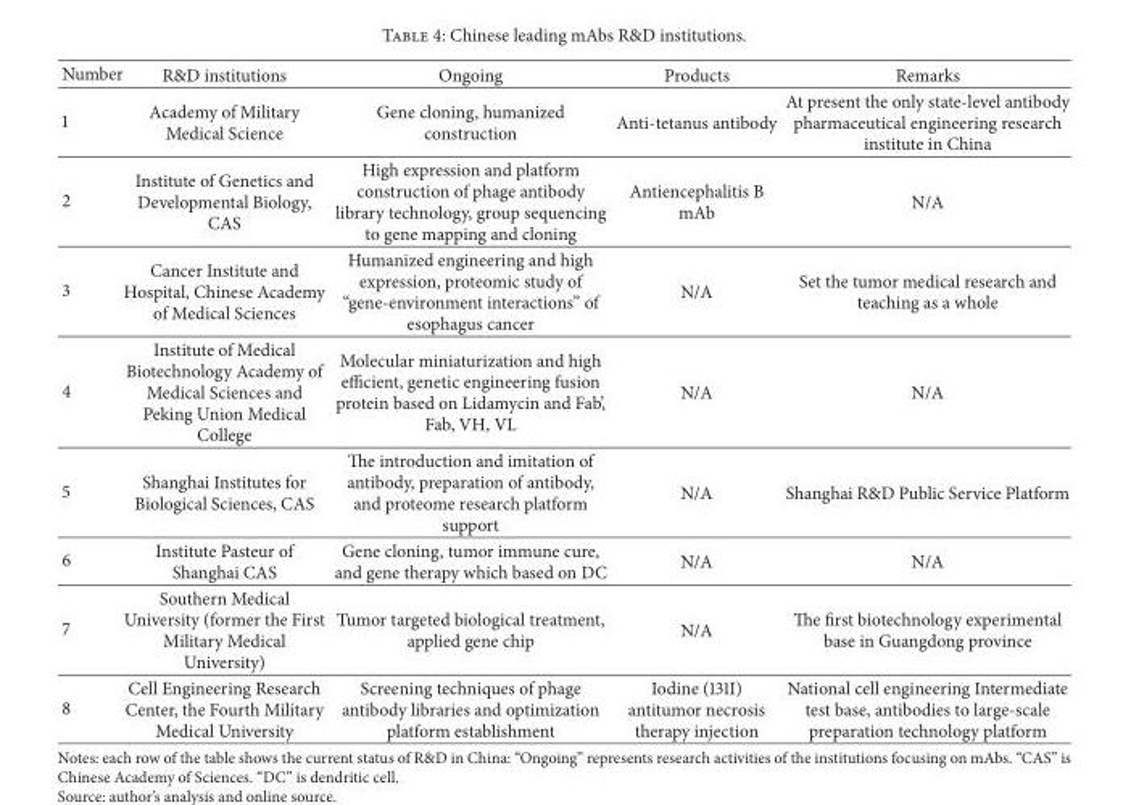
<table><thead><tr><td>Number</td><td>R&amp;D institutions</td><td>Ongoing</td><td>Products</td><td>Remarks</td></tr></thead><tbody><tr><td>1</td><td>Academy of Military Medical Science</td><td>Gene cloning, humanized construction</td><td>Anti-tetanus antibody</td><td>At present the only state-level antibody pharmaceutical engineering research institute in China</td></tr><tr><td>2</td><td>Institute of Genetics and Developmental Biology, CAS</td><td>High expression and platform construction of phage antibody library technology, group sequencing to gene mapping and cloning</td><td>Antiencephalitis B mAb</td><td>N/A</td></tr><tr><td>3</td><td>Cancer Institute and Hospital, Chinese Academy of Medical Sciences</td><td>Humanized engineering and high expression, proteomic study of “gene-environment interactions” of esophagus cancer</td><td>N/A</td><td>Set the tumor medical research and teaching as a whole</td></tr><tr><td>4</td><td>Institute of Medical Biotechnology Academy of Medical Sciences and Peking Union Medical College</td><td>Molecular miniaturization and high efficient, genetic engineering fusion protein based on Lidamycin and Fab’, Fab, VH, VL</td><td>N/A</td><td>N/A</td></tr><tr><td>5</td><td>Shanghai Institutes for Biological Sciences, CAS</td><td>The introduction and imitation of antibody, preparation of antibody, and proteome research platform support</td><td>N/A</td><td>Shanghai R&amp;D Public Service Platform</td></tr><tr><td>6</td><td>Institute Pasteur of Shanghai CAS</td><td>Gene cloning, tumor immune cure, and gene therapy which based on DC</td><td>N/A</td><td>N/A</td></tr><tr><td>7</td><td>Southern Medical University (former the First Military Medical University)</td><td>Tumor targeted biological treatment, applied gene chip</td><td>N/A</td><td>The first biotechnology experimental base in Guangdong province</td></tr><tr><td>8</td><td>Cell Engineering Research Center, the Fourth Military Medical University</td><td>Screening techniques of phage antibody libraries and optimization platform establishment</td><td>Iodine (131I) antitumor necrosis therapy injection</td><td>National cell engineering Intermediate test base, antibodies to large-scale preparation technology platform</td></tr></tbody></table>